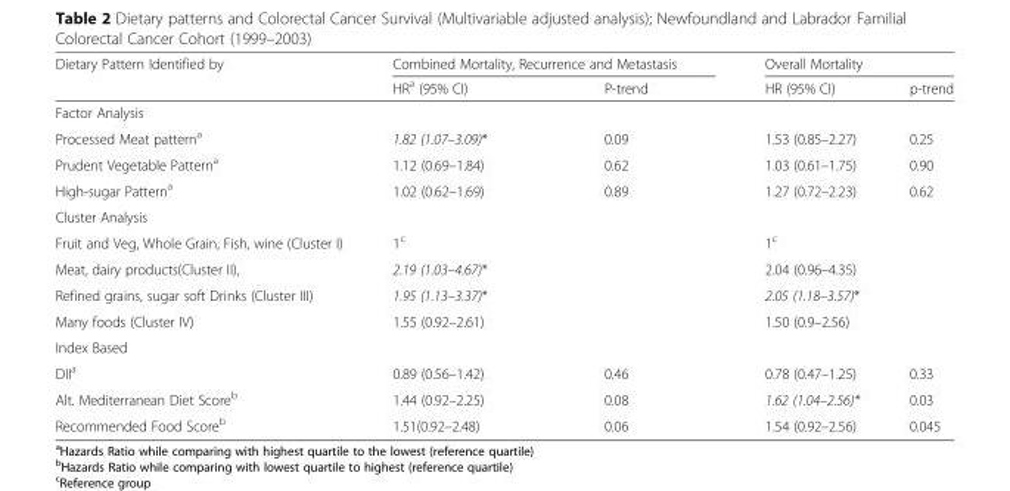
<table><thead><tr><td rowspan="2">Dietary Pattern Identified by</td><td colspan="2">Combined Mortality, Recurrence and Metastasis</td><td colspan="2">Overall Mortality</td></tr><tr><td>HR<sup>a</sup> (95% CI)</td><td>P-trend</td><td>HR (95% CI)</td><td>p-trend</td></tr></thead><tbody><tr><td colspan="5">Factor Analysis</td></tr><tr><td>Processed Meat pattern<sup>a</sup></td><td>1.82 (1.07–3.09)*</td><td>0.09</td><td>1.53 (0.85–2.27)</td><td>0.25</td></tr><tr><td>Prudent Vegetable Pattern<sup>a</sup></td><td>1.12 (0.69–1.84)</td><td>0.62</td><td>1.03 (0.61–1.75)</td><td>0.90</td></tr><tr><td>High-sugar Pattern<sup>a</sup></td><td>1.02 (0.62–1.69)</td><td>0.89</td><td>1.27 (0.72–2.23)</td><td>0.62</td></tr><tr><td colspan="5">Cluster Analysis</td></tr><tr><td>Fruit and Veg, Whole Grain, Fish, wine (Cluster I)</td><td>1<sup>c</sup></td><td></td><td>1<sup>c</sup></td><td></td></tr><tr><td>Meat, dairy products(Cluster II),</td><td>2.19 (1.03–4.67)*</td><td></td><td>2.04 (0.96–4.35)</td><td></td></tr><tr><td>Refined grains, sugar soft Drinks (Cluster III)</td><td>1.95 (1.13–3.37)*</td><td></td><td>2.05 (1.18–3.57)*</td><td></td></tr><tr><td>Many foods (Cluster IV)</td><td>1.55 (0.92–2.61)</td><td></td><td>1.50 (0.9–2.56)</td><td></td></tr><tr><td colspan="5">Index Based</td></tr><tr><td>DII<sup>a</sup></td><td>0.89 (0.56–1.42)</td><td>0.46</td><td>0.78 (0.47–1.25)</td><td>0.33</td></tr><tr><td>Alt. Mediterranean Diet Score<sup>b</sup></td><td>1.44 (0.92–2.25)</td><td>0.08</td><td>1.62 (1.04–2.56)*</td><td>0.03</td></tr><tr><td>Recommended Food Score<sup>b</sup></td><td>1.51(0.92–2.48)</td><td>0.06</td><td>1.54 (0.92–2.56)</td><td>0.045</td></tr></tbody></table>